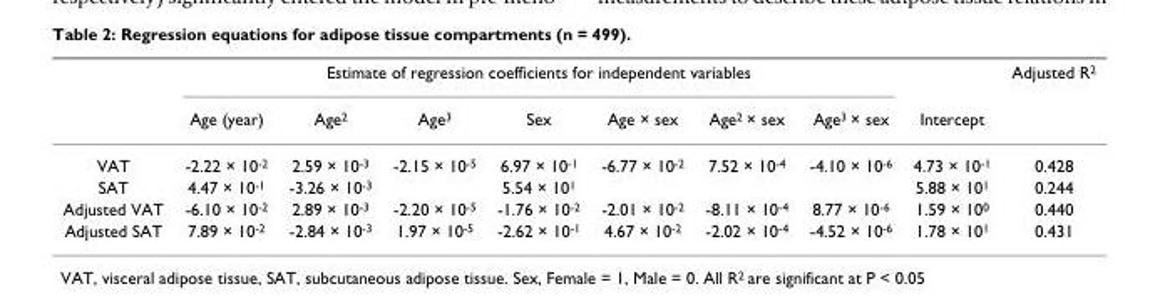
<table><thead><tr><td rowspan="2"></td><td colspan="7">Estimate of regression coefficients for independent variables</td><td rowspan="2">Intercept</td><td rowspan="2">Adjusted R<sup>2</sup></td></tr><tr><td>Age (year)</td><td>Age<sup>2</sup></td><td>Age<sup>3</sup></td><td>Sex</td><td>Age × sex</td><td>Age<sup>2</sup> × sex</td><td>Age<sup>3</sup> × sex</td></tr></thead><tbody><tr><td>VAT</td><td>-2.22 × 10<sup>-2</sup></td><td>2.59 × 10<sup>-3</sup></td><td>-2.15 × 10<sup>-5</sup></td><td>6.97 × 10<sup>-1</sup></td><td>-6.77 × 10<sup>-2</sup></td><td>7.52 × 10<sup>-4</sup></td><td>-4.10 × 10<sup>-6</sup></td><td>4.73 × 10<sup>-1</sup></td><td>0.428</td></tr><tr><td>SAT</td><td>4.47 × 10<sup>-1</sup></td><td>-3.26 × 10<sup>-3</sup></td><td></td><td>5.54 × 10<sup>1</sup></td><td></td><td></td><td></td><td>5.88 × 10<sup>1</sup></td><td>0.244</td></tr><tr><td>Adjusted VAT</td><td>-6.10 × 10<sup>-2</sup></td><td>2.89 × 10<sup>-3</sup></td><td>-2.20 × 10<sup>-5</sup></td><td>-1.76 × 10<sup>-2</sup></td><td>-2.01 × 10<sup>-2</sup></td><td>-8.11 × 10<sup>-4</sup></td><td>8.77 × 10<sup>-6</sup></td><td>1.59 × 10<sup>0</sup></td><td>0.440</td></tr><tr><td>Adjusted SAT</td><td>7.89 × 10<sup>-2</sup></td><td>-2.84 × 10<sup>-3</sup></td><td>1.97 × 10<sup>-5</sup></td><td>-2.62 × 10<sup>-1</sup></td><td>4.67 × 10<sup>-2</sup></td><td>-2.02 × 10<sup>-4</sup></td><td>-4.52 × 10<sup>-6</sup></td><td>1.78 × 10<sup>1</sup></td><td>0.431</td></tr></tbody></table>